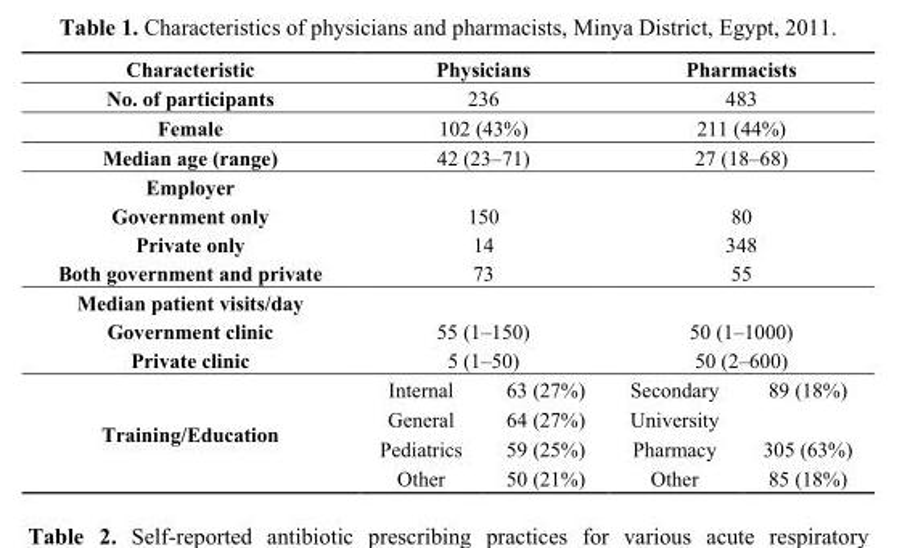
<table><thead><tr><td>Characteristic</td><td colspan="2">Physicians</td><td colspan="2">Pharmacists</td></tr></thead><tbody><tr><td>No. of participants</td><td colspan="2">236</td><td colspan="2">483</td></tr><tr><td>Female</td><td colspan="2">102 (43%)</td><td colspan="2">211 (44%)</td></tr><tr><td>Median age (range)</td><td colspan="2">42 (23–71)</td><td colspan="2">27 (18–68)</td></tr><tr><td colspan="5">Employer</td></tr><tr><td>Government only</td><td colspan="2">150</td><td colspan="2">80</td></tr><tr><td>Private only</td><td colspan="2">14</td><td colspan="2">348</td></tr><tr><td>Both government and private</td><td colspan="2">73</td><td colspan="2">55</td></tr><tr><td colspan="5">Median patient visits/day</td></tr><tr><td>Government clinic</td><td colspan="2">55 (1–150)</td><td colspan="2">50 (1–1000)</td></tr><tr><td>Private clinic</td><td colspan="2">5 (1–50)</td><td colspan="2">50 (2–600)</td></tr><tr><td rowspan="4">Training/Education</td><td>Internal</td><td>63 (27%)</td><td>Secondary</td><td>89 (18%)</td></tr><tr><td>General</td><td>64 (27%)</td><td>University</td><td></td></tr><tr><td>Pediatrics</td><td>59 (25%)</td><td>Pharmacy</td><td>305 (63%)</td></tr><tr><td>Other</td><td>50 (21%)</td><td>Other</td><td>85 (18%)</td></tr></tbody></table>